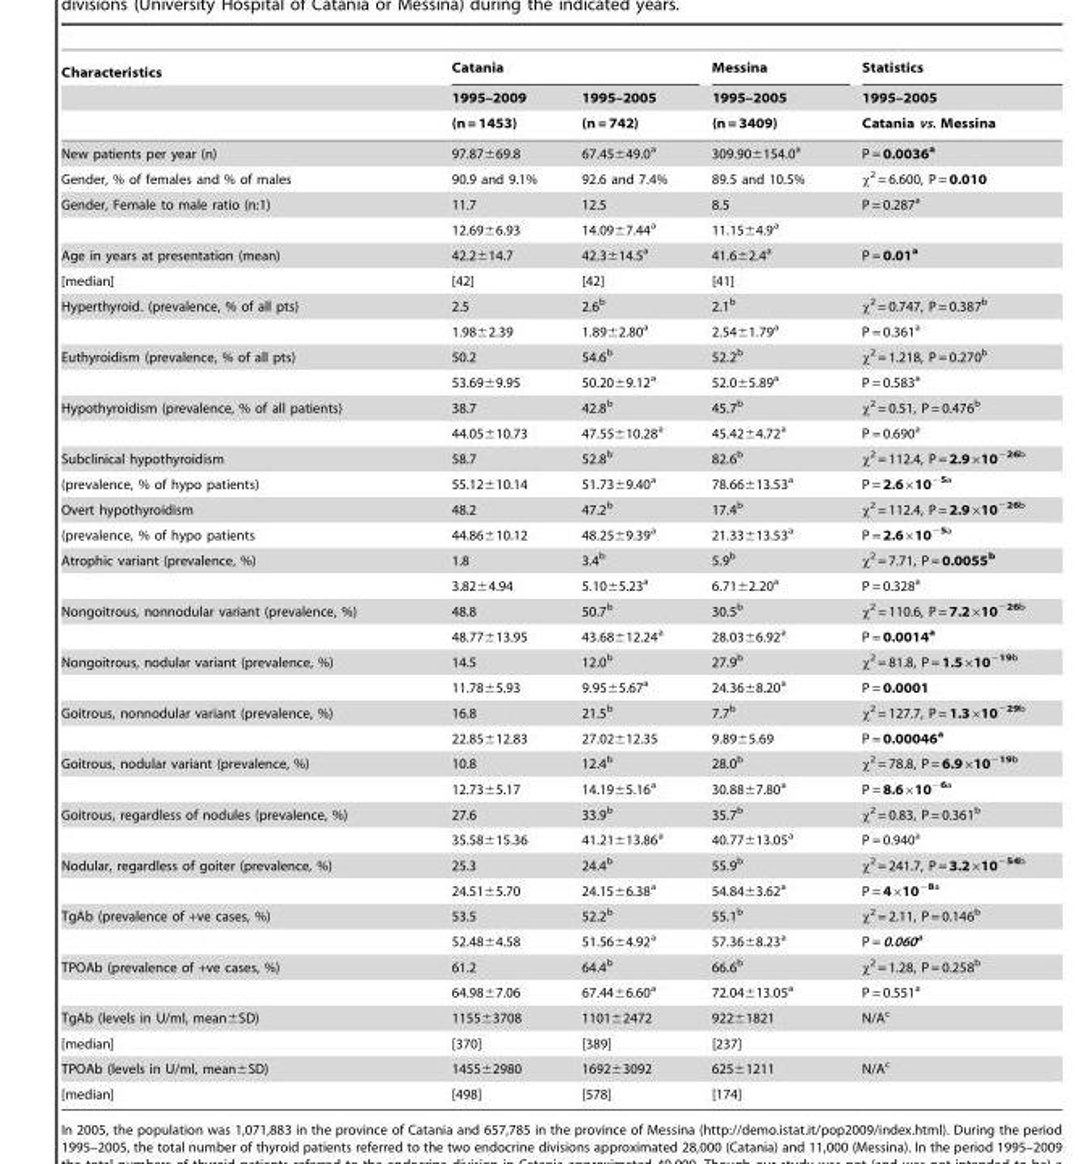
<table><thead><tr><td rowspan="3">Characteristics</td><td colspan="2">Catania</td><td rowspan="3">Messina 1995–2005 (n = 3409)</td><td rowspan="3">Statistics 1995–2005 Catania vs. Messina</td></tr><tr><td rowspan="2">1995–2009 (n = 1453)</td><td rowspan="2">1995–2005 (n = 742)</td></tr><tr></tr></thead><tbody><tr><td>New patients per year (n)</td><td>97.87±69.8</td><td>67.45±49.0<sup>a</sup></td><td>309.90±154.0<sup>a</sup></td><td>P = 0.0036a</td></tr><tr><td>Gender, % of females and % of males</td><td>90.9 and 9.1%</td><td>92.6 and 7.4%</td><td>89.5 and 10.5%</td><td>χ<sup>2</sup> = 6.600, P = 0.010</td></tr><tr><td rowspan="2">Gender, Female to male ratio (n:1)</td><td>11.7</td><td>12.5</td><td>8.5</td><td>P = 0.287<sup>a</sup></td></tr><tr><td>12.69±6.93</td><td>14.09±7.44<sup>a</sup></td><td>11.15±4.9<sup>a</sup></td><td></td></tr><tr><td>Age in years at presentation (mean)</td><td>42.2±14.7</td><td>42.3±14.5<sup>a</sup></td><td>41.6±2.4<sup>a</sup></td><td>P = 0.01a</td></tr><tr><td>[median]</td><td>[42]</td><td>[42]</td><td>[41]</td><td></td></tr><tr><td rowspan="2">Hyperthyroid. (prevalence, % of all pts)</td><td>2.5</td><td>2.6<sup>b</sup></td><td>2.1<sup>b</sup></td><td>χ<sup>2</sup> = 0.747, P = 0.387<sup>b</sup></td></tr><tr><td>1.98±2.39</td><td>1.89±2.80<sup>a</sup></td><td>2.54±1.79<sup>a</sup></td><td>P = 0.361<sup>a</sup></td></tr><tr><td rowspan="2">Euthyroidism (prevalence, % of all pts)</td><td>50.2</td><td>54.6<sup>b</sup></td><td>52.2<sup>b</sup></td><td>χ<sup>2</sup> = 1.218, P = 0.270<sup>b</sup></td></tr><tr><td>53.69±9.95</td><td>50.20±9.12<sup>a</sup></td><td>52.0±5.89<sup>a</sup></td><td>P = 0.583<sup>a</sup></td></tr><tr><td rowspan="2">Hypothyroidism (prevalence, % of all patients)</td><td>38.7</td><td>42.8<sup>b</sup></td><td>45.7<sup>b</sup></td><td>χ<sup>2</sup> = 0.51, P = 0.476<sup>b</sup></td></tr><tr><td>44.05±10.73</td><td>47.55±10.28<sup>a</sup></td><td>45.42±4.72<sup>a</sup></td><td>P = 0.690<sup>a</sup></td></tr><tr><td>Subclinical hypothyroidism</td><td>58.7</td><td>52.8<sup>b</sup></td><td>82.6<sup>b</sup></td><td>χ<sup>2</sup> = 112.4, P = 2.9×10<sup>−26</sup>b</td></tr><tr><td>(prevalence, % of hypo patients)</td><td>55.12±10.14</td><td>51.73±9.40<sup>a</sup></td><td>78.66±13.53<sup>a</sup></td><td>P = 2.6×10<sup>−5</sup>a</td></tr><tr><td>Overt hypothyroidism</td><td>48.2</td><td>47.2<sup>b</sup></td><td>17.4<sup>b</sup></td><td>χ<sup>2</sup> = 112.4, P = 2.9×10<sup>−26</sup>b</td></tr><tr><td>(prevalence, % of hypo patients</td><td>44.86±10.12</td><td>48.25±9.39<sup>a</sup></td><td>21.33±13.53<sup>a</sup></td><td>P = 2.6×10<sup>−5</sup>a</td></tr><tr><td rowspan="2">Atrophic variant (prevalence, %)</td><td>1.8</td><td>3.4<sup>b</sup></td><td>5.9<sup>b</sup></td><td>χ<sup>2</sup> = 7.71, P = 0.0055b</td></tr><tr><td>3.82±4.94</td><td>5.10±5.23<sup>a</sup></td><td>6.71±2.20<sup>a</sup></td><td>P = 0.328<sup>a</sup></td></tr><tr><td rowspan="2">Nongoitrous, nonnodular variant (prevalence, %)</td><td>48.8</td><td>50.7<sup>b</sup></td><td>30.5<sup>b</sup></td><td>χ<sup>2</sup> = 110.6, P = 7.2×10<sup>−26</sup>b</td></tr><tr><td>48.77±13.95</td><td>43.68±12.24<sup>a</sup></td><td>28.03±6.92<sup>a</sup></td><td>P = 0.0014a</td></tr><tr><td rowspan="2">Nongoitrous, nodular variant (prevalence, %)</td><td>14.5</td><td>12.0<sup>b</sup></td><td>27.9<sup>b</sup></td><td>χ<sup>2</sup> = 81.8, P = 1.5×10<sup>−19</sup>b</td></tr><tr><td>11.78±5.93</td><td>9.95±5.67<sup>a</sup></td><td>24.36±8.20<sup>a</sup></td><td>P = 0.0001</td></tr><tr><td rowspan="2">Goitrous, nonnodular variant (prevalence, %)</td><td>16.8</td><td>21.5<sup>b</sup></td><td>7.7<sup>b</sup></td><td>χ<sup>2</sup> = 127.7, P = 1.3×10<sup>−29</sup>b</td></tr><tr><td>22.85±12.83</td><td>27.02±12.35</td><td>9.89±5.69</td><td>P = 0.00046a</td></tr><tr><td rowspan="2">Goitrous, nodular variant (prevalence, %)</td><td>10.8</td><td>12.4<sup>b</sup></td><td>28.0<sup>b</sup></td><td>χ<sup>2</sup> = 78.8, P = 6.9×10<sup>−19</sup>b</td></tr><tr><td>12.73±5.17</td><td>14.19±5.16<sup>a</sup></td><td>30.88±7.80<sup>a</sup></td><td>P = 8.6×10<sup>−6</sup>a</td></tr><tr><td rowspan="2">Goitrous, regardless of nodules (prevalence, %)</td><td>27.6</td><td>33.9<sup>b</sup></td><td>35.7<sup>b</sup></td><td>χ<sup>2</sup> = 0.83, P = 0.361<sup>b</sup></td></tr><tr><td>35.58±15.36</td><td>41.21±13.86<sup>a</sup></td><td>40.77±13.05<sup>a</sup></td><td>P = 0.940<sup>a</sup></td></tr><tr><td rowspan="2">Nodular, regardless of goiter (prevalence, %)</td><td>25.3</td><td>24.4<sup>b</sup></td><td>55.9<sup>b</sup></td><td>χ<sup>2</sup> = 241.7, P = 3.2×10<sup>−54</sup>b</td></tr><tr><td>24.51±5.70</td><td>24.15±6.38<sup>a</sup></td><td>54.84±3.62<sup>a</sup></td><td>P = 4×10<sup>−8</sup>a</td></tr><tr><td rowspan="2">TgAb (prevalence of +ve cases, %)</td><td>53.5</td><td>52.2<sup>b</sup></td><td>55.1<sup>b</sup></td><td>χ<sup>2</sup> = 2.11, P = 0.146<sup>b</sup></td></tr><tr><td>52.48±4.58</td><td>51.56±4.92<sup>a</sup></td><td>57.36±8.23<sup>a</sup></td><td>P = 0.060a</td></tr><tr><td rowspan="2">TPOAb (prevalence of +ve cases, %)</td><td>61.2</td><td>64.4<sup>b</sup></td><td>66.6<sup>b</sup></td><td>χ<sup>2</sup> = 1.28, P = 0.258<sup>b</sup></td></tr><tr><td>64.98±7.06</td><td>67.44±6.60<sup>a</sup></td><td>72.04±13.05<sup>a</sup></td><td>P = 0.551<sup>a</sup></td></tr><tr><td>TgAb (levels in U/ml, mean±SD)</td><td>1155±3708</td><td>1101±2472</td><td>922±1821</td><td>N/A<sup>c</sup></td></tr><tr><td>[median]</td><td>[370]</td><td>[389]</td><td>[237]</td><td></td></tr><tr><td>TPOAb (levels in U/ml, mean±SD)</td><td>1455±2980</td><td>1692±3092</td><td>625±1211</td><td>N/A<sup>c</sup></td></tr><tr><td>[median]</td><td>[498]</td><td>[578]</td><td>[174]</td><td></td></tr></tbody></table>